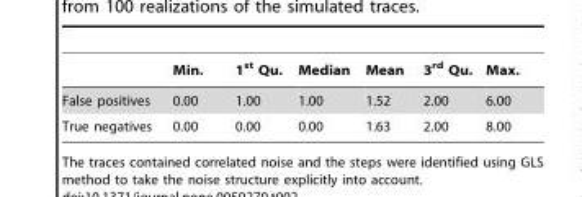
<table><thead><tr><td></td><td>Min.</td><td>1<sup>st</sup> Qu.</td><td>Median</td><td>Mean</td><td>3<sup>rd</sup> Qu.</td><td>Max.</td></tr></thead><tbody><tr><td>False positives</td><td>0.00</td><td>1.00</td><td>1.00</td><td>1.52</td><td>2.00</td><td>6.00</td></tr><tr><td>True negatives</td><td>0.00</td><td>0.00</td><td>0.00</td><td>1.63</td><td>2.00</td><td>8.00</td></tr></tbody></table>